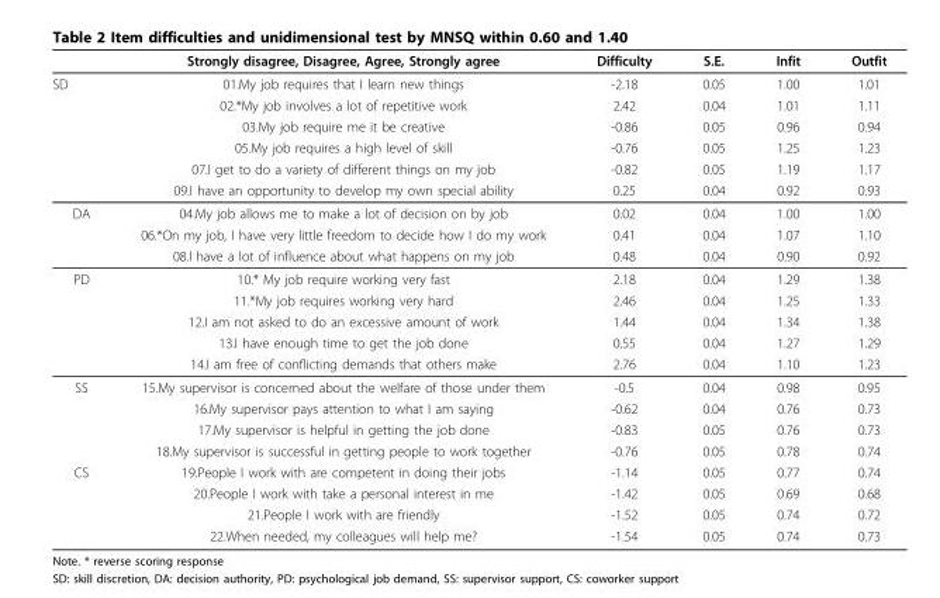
<table><thead><tr><td></td><td>Strongly disagree, Disagree, Agree, Strongly agree</td><td>Difficulty</td><td>S.E.</td><td>Infit</td><td>Outfit</td></tr></thead><tbody><tr><td rowspan="6">SD</td><td>01.My job requires that I learn new things</td><td>-2.18</td><td>0.05</td><td>1.00</td><td>1.01</td></tr><tr><td>02.*My job involves a lot of repetitive work</td><td>2.42</td><td>0.04</td><td>1.01</td><td>1.11</td></tr><tr><td>03.My job require me it be creative</td><td>-0.86</td><td>0.05</td><td>0.96</td><td>0.94</td></tr><tr><td>05.My job requires a high level of skill</td><td>-0.76</td><td>0.05</td><td>1.25</td><td>1.23</td></tr><tr><td>07.I get to do a variety of different things on my job</td><td>-0.82</td><td>0.05</td><td>1.19</td><td>1.17</td></tr><tr><td>09.I have an opportunity to develop my own special ability</td><td>0.25</td><td>0.04</td><td>0.92</td><td>0.93</td></tr><tr><td rowspan="3">DA</td><td>04.My job allows me to make a lot of decision on by job</td><td>0.02</td><td>0.04</td><td>1.00</td><td>1.00</td></tr><tr><td>06.*On my job, I have very little freedom to decide how I do my work</td><td>0.41</td><td>0.04</td><td>1.07</td><td>1.10</td></tr><tr><td>08.I have a lot of influence about what happens on my job</td><td>0.48</td><td>0.04</td><td>0.90</td><td>0.92</td></tr><tr><td rowspan="5">PD</td><td>10.* My job require working very fast</td><td>2.18</td><td>0.04</td><td>1.29</td><td>1.38</td></tr><tr><td>11.*My job requires working very hard</td><td>2.46</td><td>0.04</td><td>1.25</td><td>1.33</td></tr><tr><td>12.I am not asked to do an excessive amount of work</td><td>1.44</td><td>0.04</td><td>1.34</td><td>1.38</td></tr><tr><td>13.I have enough time to get the job done</td><td>0.55</td><td>0.04</td><td>1.27</td><td>1.29</td></tr><tr><td>14.I am free of conflicting demands that others make</td><td>2.76</td><td>0.04</td><td>1.10</td><td>1.23</td></tr><tr><td rowspan="4">SS</td><td>15.My supervisor is concerned about the welfare of those under them</td><td>-0.5</td><td>0.04</td><td>0.98</td><td>0.95</td></tr><tr><td>16.My supervisor pays attention to what I am saying</td><td>-0.62</td><td>0.04</td><td>0.76</td><td>0.73</td></tr><tr><td>17.My supervisor is helpful in getting the job done</td><td>-0.83</td><td>0.05</td><td>0.76</td><td>0.73</td></tr><tr><td>18.My supervisor is successful in getting people to work together</td><td>-0.76</td><td>0.05</td><td>0.78</td><td>0.74</td></tr><tr><td rowspan="4">CS</td><td>19.People I work with are competent in doing their jobs</td><td>-1.14</td><td>0.05</td><td>0.77</td><td>0.74</td></tr><tr><td>20.People I work with take a personal interest in me</td><td>-1.42</td><td>0.05</td><td>0.69</td><td>0.68</td></tr><tr><td>21.People I work with are friendly</td><td>-1.52</td><td>0.05</td><td>0.74</td><td>0.72</td></tr><tr><td>22.When needed, my colleagues will help me?</td><td>-1.54</td><td>0.05</td><td>0.74</td><td>0.73</td></tr></tbody></table>